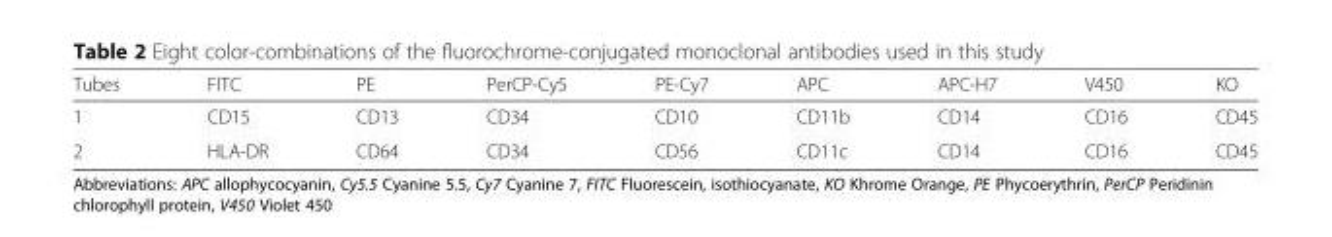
<table><thead><tr><td>Tubes</td><td>FITC</td><td>PE</td><td>PerCP-Cy5</td><td>PE-Cy7</td><td>APC</td><td>APC-H7</td><td>V450</td><td>KO</td></tr></thead><tbody><tr><td>1</td><td>CD15</td><td>CD13</td><td>CD34</td><td>CD10</td><td>CD11b</td><td>CD14</td><td>CD16</td><td>CD45</td></tr><tr><td>2</td><td>HLA-DR</td><td>CD64</td><td>CD34</td><td>CD56</td><td>CD11c</td><td>CD14</td><td>CD16</td><td>CD45</td></tr></tbody></table>